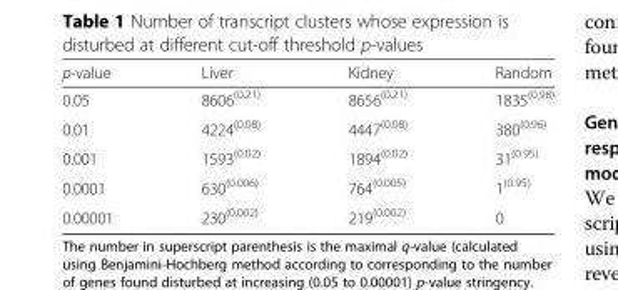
<table><thead><tr><td>p-value</td><td>Liver</td><td>Kidney</td><td>Random</td></tr></thead><tbody><tr><td>0.05</td><td>8606<sup>(0.21)</sup></td><td>8656<sup>(0.21)</sup></td><td>1835<sup>(0.98)</sup></td></tr><tr><td>0.01</td><td>4224<sup>(0.08)</sup></td><td>4447<sup>(0.08)</sup></td><td>380<sup>(0.96)</sup></td></tr><tr><td>0.001</td><td>1593<sup>(0.02)</sup></td><td>1894<sup>(0.02)</sup></td><td>31<sup>(0.95)</sup></td></tr><tr><td>0.0001</td><td>630<sup>(0.006)</sup></td><td>764<sup>(0.005)</sup></td><td>1<sup>(0.95)</sup></td></tr><tr><td>0.00001</td><td>230<sup>(0.002)</sup></td><td>219<sup>(0.002)</sup></td><td>0</td></tr></tbody></table>